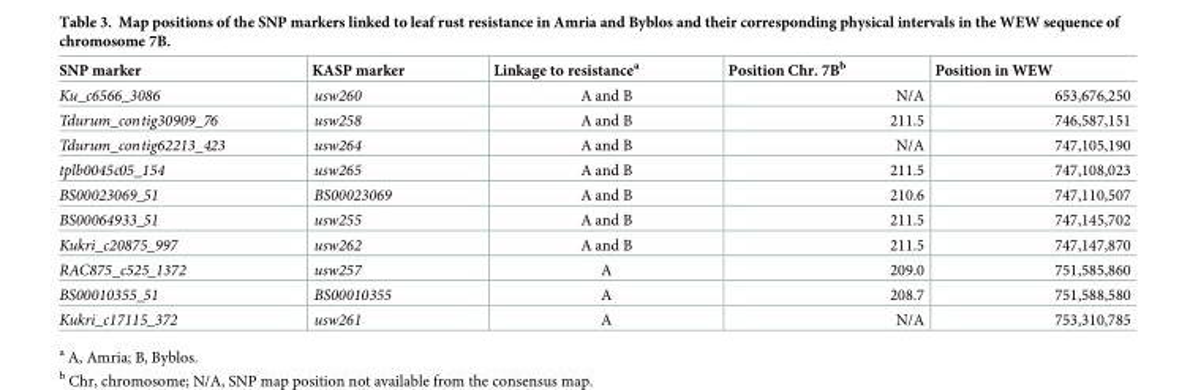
<table><thead><tr><td>SNP marker</td><td>KASP marker</td><td>Linkage to resistance<sup>a</sup></td><td>Position Chr. 7B<sup>b</sup></td><td>Position in WEW</td></tr></thead><tbody><tr><td>Ku_c6566_3086</td><td>usw260</td><td>A and B</td><td>N/A</td><td>653,676,250</td></tr><tr><td>Tdurum_contig30909_76</td><td>usw258</td><td>A and B</td><td>211.5</td><td>746,587,151</td></tr><tr><td>Tdurum_contig62213_423</td><td>usw264</td><td>A and B</td><td>N/A</td><td>747,105,190</td></tr><tr><td>tplb0045c05_154</td><td>usw265</td><td>A and B</td><td>211.5</td><td>747,108,023</td></tr><tr><td>BS00023069_51</td><td>BS00023069</td><td>A and B</td><td>210.6</td><td>747,110,507</td></tr><tr><td>BS00064933_51</td><td>usw255</td><td>A and B</td><td>211.5</td><td>747,145,702</td></tr><tr><td>Kukri_c20875_997</td><td>usw262</td><td>A and B</td><td>211.5</td><td>747,147,870</td></tr><tr><td>RAC875_c525_1372</td><td>usw257</td><td>A</td><td>209.0</td><td>751,585,860</td></tr><tr><td>BS00010355_51</td><td>BS00010355</td><td>A</td><td>208.7</td><td>751,588,580</td></tr><tr><td>Kukri_c17115_372</td><td>usw261</td><td>A</td><td>N/A</td><td>753,310,785</td></tr></tbody></table>